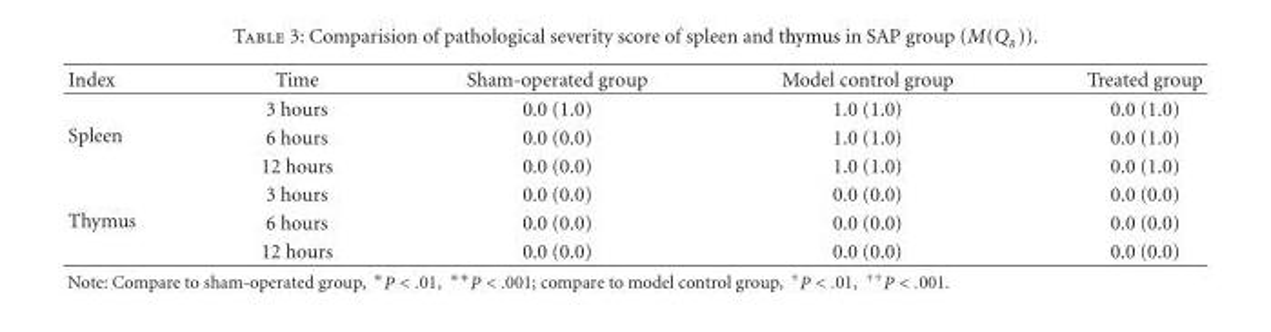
<table><thead><tr><td>Index</td><td>Time</td><td>Sham-operated group</td><td>Model control group</td><td>Treated group</td></tr></thead><tbody><tr><td rowspan="3">Spleen</td><td>3 hours</td><td>0.0 (1.0)</td><td>1.0 (1.0)</td><td>0.0 (1.0)</td></tr><tr><td>6 hours</td><td>0.0 (0.0)</td><td>1.0 (1.0)</td><td>0.0 (1.0)</td></tr><tr><td>12 hours</td><td>0.0 (0.0)</td><td>1.0 (1.0)</td><td>0.0 (1.0)</td></tr><tr><td rowspan="3">Thymus</td><td>3 hours</td><td>0.0 (0.0)</td><td>0.0 (0.0)</td><td>0.0 (0.0)</td></tr><tr><td>6 hours</td><td>0.0 (0.0)</td><td>0.0 (0.0)</td><td>0.0 (0.0)</td></tr><tr><td>12 hours</td><td>0.0 (0.0)</td><td>0.0 (0.0)</td><td>0.0 (0.0)</td></tr></tbody></table>